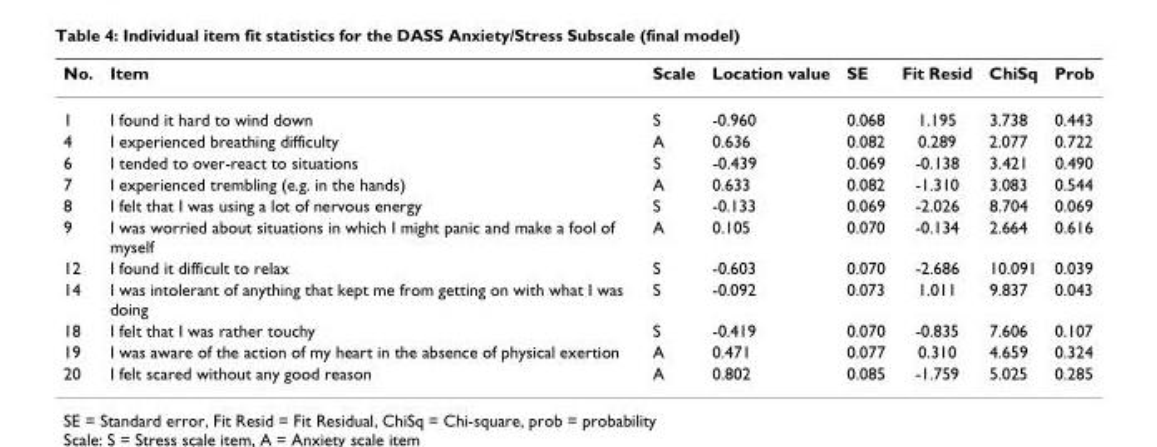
<table><thead><tr><td>No.</td><td>Item</td><td>Scale</td><td>Location value</td><td>SE</td><td>Fit Resid</td><td>ChiSq</td><td>Prob</td></tr></thead><tbody><tr><td>1</td><td>I found it hard to wind down</td><td>S</td><td>-0.960</td><td>0.068</td><td>1.195</td><td>3.738</td><td>0.443</td></tr><tr><td>4</td><td>I experienced breathing difficulty</td><td>A</td><td>0.636</td><td>0.082</td><td>0.289</td><td>2.077</td><td>0.722</td></tr><tr><td>6</td><td>I tended to over-react to situations</td><td>S</td><td>-0.439</td><td>0.069</td><td>-0.138</td><td>3.421</td><td>0.490</td></tr><tr><td>7</td><td>I experienced trembling (e.g. in the hands)</td><td>A</td><td>0.633</td><td>0.082</td><td>-1.310</td><td>3.083</td><td>0.544</td></tr><tr><td>8</td><td>I felt that I was using a lot of nervous energy</td><td>S</td><td>-0.133</td><td>0.069</td><td>-2.026</td><td>8.704</td><td>0.069</td></tr><tr><td>9</td><td>I was worried about situations in which I might panic and make a fool of myself</td><td>A</td><td>0.105</td><td>0.070</td><td>-0.134</td><td>2.664</td><td>0.616</td></tr><tr><td>12</td><td>I found it difficult to relax</td><td>S</td><td>-0.603</td><td>0.070</td><td>-2.686</td><td>10.091</td><td>0.039</td></tr><tr><td>14</td><td>I was intolerant of anything that kept me from getting on with what I was doing</td><td>S</td><td>-0.092</td><td>0.073</td><td>1.011</td><td>9.837</td><td>0.043</td></tr><tr><td>18</td><td>I felt that I was rather touchy</td><td>S</td><td>-0.419</td><td>0.070</td><td>-0.835</td><td>7.606</td><td>0.107</td></tr><tr><td>19</td><td>I was aware of the action of my heart in the absence of physical exertion</td><td>A</td><td>0.471</td><td>0.077</td><td>0.310</td><td>4.659</td><td>0.324</td></tr><tr><td>20</td><td>I felt scared without any good reason</td><td>A</td><td>0.802</td><td>0.085</td><td>-1.759</td><td>5.025</td><td>0.285</td></tr></tbody></table>